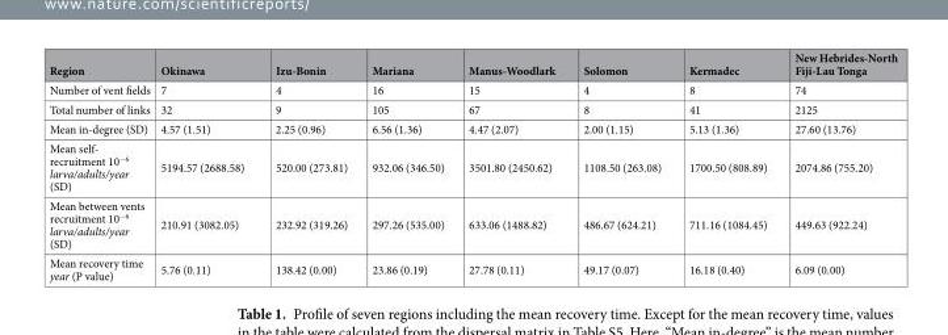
<table><thead><tr><td>Region</td><td>Okinawa</td><td>Izu-Bonin</td><td>Mariana</td><td>Manus-Woodlark</td><td>Solomon</td><td>Kermadec</td><td>New Hebrides-North Fiji-Lau Tonga</td></tr></thead><tbody><tr><td>Number of vent fields</td><td>7</td><td>4</td><td>16</td><td>15</td><td>4</td><td>8</td><td>74</td></tr><tr><td>Total number of links</td><td>32</td><td>9</td><td>105</td><td>67</td><td>8</td><td>41</td><td>2125</td></tr><tr><td>Mean in-degree (SD)</td><td>4.57 (1.51)</td><td>2.25 (0.96)</td><td>6.56 (1.36)</td><td>4.47 (2.07)</td><td>2.00 (1.15)</td><td>5.13 (1.36)</td><td>27.60 (13.76)</td></tr><tr><td>Mean self- recruitment 10<sup>−6</sup> larva/adults/year (SD)</td><td>5194.57 (2688.58)</td><td>520.00 (273.81)</td><td>932.06 (346.50)</td><td>3501.80 (2450.62)</td><td>1108.50 (263.08)</td><td>1700.50 (808.89)</td><td>2074.86 (755.20)</td></tr><tr><td>Mean between vents recruitment 10<sup>−6</sup> larva/adults/year (SD)</td><td>210.91 (3082.05)</td><td>232.92 (319.26)</td><td>297.26 (535.00)</td><td>633.06 (1488.82)</td><td>486.67 (624.21)</td><td>711.16 (1084.45)</td><td>449.63 (922.24)</td></tr><tr><td>Mean recovery time year (P value)</td><td>5.76 (0.11)</td><td>138.42 (0.00)</td><td>23.86 (0.19)</td><td>27.78 (0.11)</td><td>49.17 (0.07)</td><td>16.18 (0.40)</td><td>6.09 (0.00)</td></tr></tbody></table>